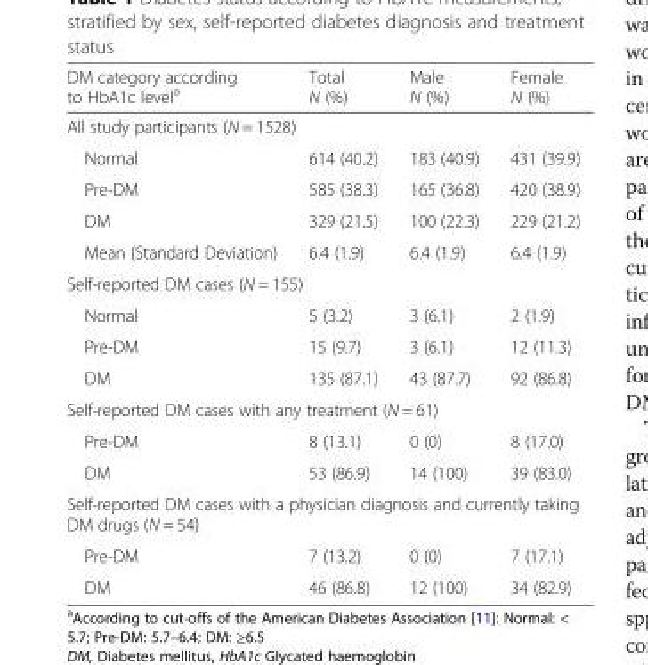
<table><thead><tr><td>DM category according to HbA1c level<sup>a</sup></td><td>Total N (%)</td><td>Male N (%)</td><td>Female N (%)</td></tr></thead><tbody><tr><td colspan="4">All study participants (N = 1528)</td></tr><tr><td>Normal</td><td>614 (40.2)</td><td>183 (40.9)</td><td>431 (39.9)</td></tr><tr><td>Pre-DM</td><td>585 (38.3)</td><td>165 (36.8)</td><td>420 (38.9)</td></tr><tr><td>DM</td><td>329 (21.5)</td><td>100 (22.3)</td><td>229 (21.2)</td></tr><tr><td>Mean (Standard Deviation)</td><td>6.4 (1.9)</td><td>6.4 (1.9)</td><td>6.4 (1.9)</td></tr><tr><td colspan="4">Self-reported DM cases (N = 155)</td></tr><tr><td>Normal</td><td>5 (3.2)</td><td>3 (6.1)</td><td>2 (1.9)</td></tr><tr><td>Pre-DM</td><td>15 (9.7)</td><td>3 (6.1)</td><td>12 (11.3)</td></tr><tr><td>DM</td><td>135 (87.1)</td><td>43 (87.7)</td><td>92 (86.8)</td></tr><tr><td colspan="4">Self-reported DM cases with any treatment (N = 61)</td></tr><tr><td>Pre-DM</td><td>8 (13.1)</td><td>0 (0)</td><td>8 (17.0)</td></tr><tr><td>DM</td><td>53 (86.9)</td><td>14 (100)</td><td>39 (83.0)</td></tr><tr><td colspan="4">Self-reported DM cases with a physician diagnosis and currently taking DM drugs (N = 54)</td></tr><tr><td>Pre-DM</td><td>7 (13.2)</td><td>0 (0)</td><td>7 (17.1)</td></tr><tr><td>DM</td><td>46 (86.8)</td><td>12 (100)</td><td>34 (82.9)</td></tr></tbody></table>